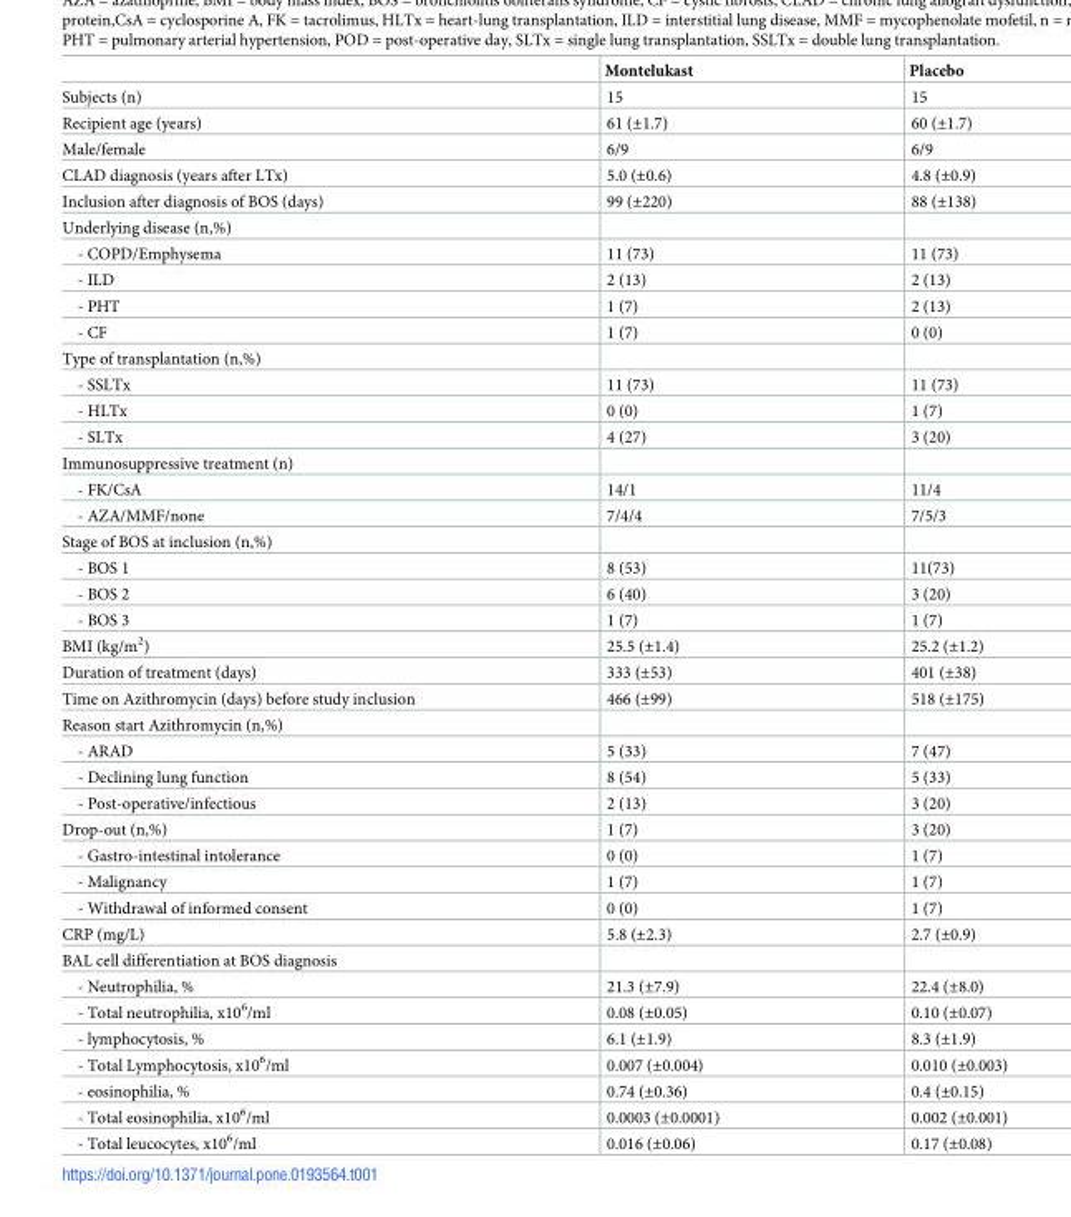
<table><thead><tr><td></td><td>Montelukast</td><td>Placebo</td></tr></thead><tbody><tr><td>Subjects (n)</td><td>15</td><td>15</td></tr><tr><td>Recipient age (years)</td><td>61 (±1.7)</td><td>60 (±1.7)</td></tr><tr><td>Male/female</td><td>6/9</td><td>6/9</td></tr><tr><td>CLAD diagnosis (years after LTx)</td><td>5.0 (±0.6)</td><td>4.8 (±0.9)</td></tr><tr><td>Inclusion after diagnosis of BOS (days)</td><td>99 (±220)</td><td>88 (±138)</td></tr><tr><td colspan="3">Underlying disease (n,%)</td></tr><tr><td>- COPD/Emphysema</td><td>11 (73)</td><td>11 (73)</td></tr><tr><td>- ILD</td><td>2 (13)</td><td>2 (13)</td></tr><tr><td>- PHT</td><td>1 (7)</td><td>2 (13)</td></tr><tr><td>- CF</td><td>1 (7)</td><td>0 (0)</td></tr><tr><td colspan="3">Type of transplantation (n,%)</td></tr><tr><td>- SSLTx</td><td>11 (73)</td><td>11 (73)</td></tr><tr><td>- HLTx</td><td>0 (0)</td><td>1 (7)</td></tr><tr><td>- SLTx</td><td>4 (27)</td><td>3 (20)</td></tr><tr><td colspan="3">Immunosuppressive treatment (n)</td></tr><tr><td>- FK/CsA</td><td>14/1</td><td>11/4</td></tr><tr><td>- AZA/MMF/none</td><td>7/4/4</td><td>7/5/3</td></tr><tr><td colspan="3">Stage of BOS at inclusion (n,%)</td></tr><tr><td>- BOS 1</td><td>8 (53)</td><td>11(73)</td></tr><tr><td>- BOS 2</td><td>6 (40)</td><td>3 (20)</td></tr><tr><td>- BOS 3</td><td>1 (7)</td><td>1 (7)</td></tr><tr><td>BMI (kg/m<sup>2</sup>)</td><td>25.5 (±1.4)</td><td>25.2 (±1.2)</td></tr><tr><td>Duration of treatment (days)</td><td>333 (±53)</td><td>401 (±38)</td></tr><tr><td>Time on Azithromycin (days) before study inclusion</td><td>466 (±99)</td><td>518 (±175)</td></tr><tr><td colspan="3">Reason start Azithromycin (n,%)</td></tr><tr><td>- ARAD</td><td>5 (33)</td><td>7 (47)</td></tr><tr><td>- Declining lung function</td><td>8 (54)</td><td>5 (33)</td></tr><tr><td>- Post-operative/infectious</td><td>2 (13)</td><td>3 (20)</td></tr><tr><td>Drop-out (n,%)</td><td>1 (7)</td><td>3 (20)</td></tr><tr><td>- Gastro-intestinal intolerance</td><td>0 (0)</td><td>1 (7)</td></tr><tr><td>- Malignancy</td><td>1 (7)</td><td>1 (7)</td></tr><tr><td>- Withdrawal of informed consent</td><td>0 (0)</td><td>1 (7)</td></tr><tr><td>CRP (mg/L)</td><td>5.8 (±2.3)</td><td>2.7 (±0.9)</td></tr><tr><td colspan="3">BAL cell differentiation at BOS diagnosis</td></tr><tr><td>- Neutrophilia, %</td><td>21.3 (±7.9)</td><td>22.4 (±8.0)</td></tr><tr><td>- Total neutrophilia, x10<sup>6</sup>/ml</td><td>0.08 (±0.05)</td><td>0.10 (±0.07)</td></tr><tr><td>- lymphocytosis, %</td><td>6.1 (±1.9)</td><td>8.3 (±1.9)</td></tr><tr><td>- Total Lymphocytosis, x10<sup>6</sup>/ml</td><td>0.007 (±0.004)</td><td>0.010 (±0.003)</td></tr><tr><td>- eosinophilia, %</td><td>0.74 (±0.36)</td><td>0.4 (±0.15)</td></tr><tr><td>- Total eosinophilia, x10<sup>6</sup>/ml</td><td>0.0003 (±0.0001)</td><td>0.002 (±0.001)</td></tr><tr><td>- Total leucocytes, x10<sup>6</sup>/ml</td><td>0.016 (±0.06)</td><td>0.17 (±0.08)</td></tr></tbody></table>